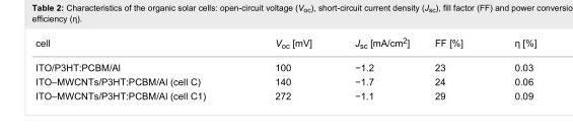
<table><tbody><tr><td>cell</td><td>V<sub>oc</sub> [mV]</td><td>J<sub>sc</sub> [mA/cm<sup>2</sup>]</td><td>FF [%]</td><td>η [%]</td></tr><tr><td>ITO/P3HT:PCBM/Al</td><td>100</td><td>−1.2</td><td>23</td><td>0.03</td></tr><tr><td>ITO–MWCNTs/P3HT:PCBM/Al (cell C)</td><td>140</td><td>−1.7</td><td>24</td><td>0.06</td></tr><tr><td>ITO–MWCNTs/P3HT:PCBM/Al (cell C1)</td><td>272</td><td>−1.1</td><td>29</td><td>0.09</td></tr></tbody></table>